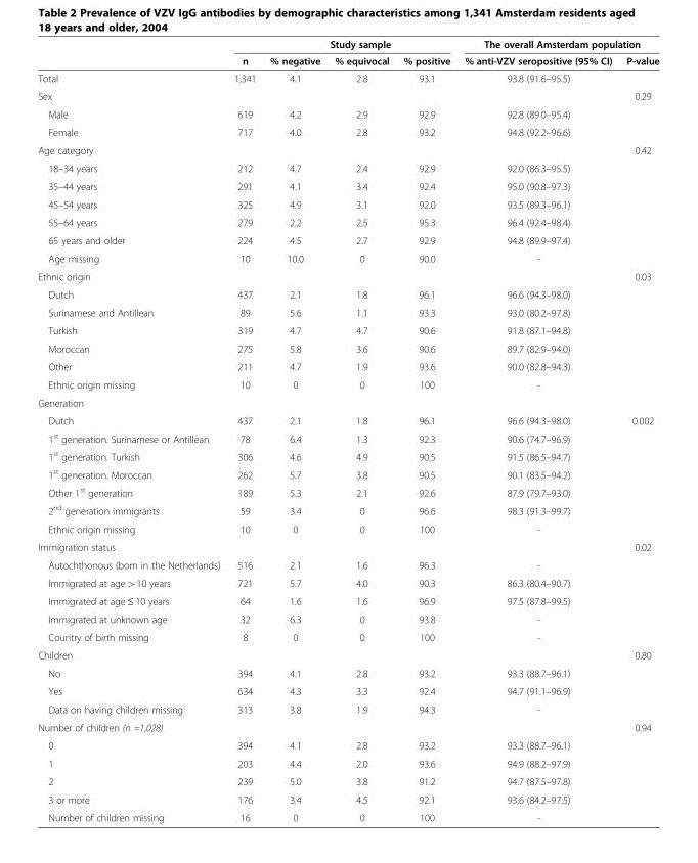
<table><thead><tr><td rowspan="2"></td><td colspan="4">Study sample</td><td colspan="2">The overall Amsterdam population</td></tr><tr><td>n</td><td>% negative</td><td>% equivocal</td><td>% positive</td><td>% anti-VZV seropositive (95% CI)</td><td>P-value</td></tr></thead><tbody><tr><td>Total</td><td>1,341</td><td>4.1</td><td>2.8</td><td>93.1</td><td>93.8 (91.6–95.5)</td><td></td></tr><tr><td>Sex</td><td></td><td></td><td></td><td></td><td></td><td>0.29</td></tr><tr><td>Male</td><td>619</td><td>4.2</td><td>2.9</td><td>92.9</td><td>92.8 (89.0–95.4)</td><td></td></tr><tr><td>Female</td><td>717</td><td>4.0</td><td>2.8</td><td>93.2</td><td>94.8 (92.2–96.6)</td><td></td></tr><tr><td>Age category</td><td></td><td></td><td></td><td></td><td></td><td>0.42</td></tr><tr><td>18–34 years</td><td>212</td><td>4.7</td><td>2.4</td><td>92.9</td><td>92.0 (86.3–95.5)</td><td></td></tr><tr><td>35–44 years</td><td>291</td><td>4.1</td><td>3.4</td><td>92.4</td><td>95.0 (90.8–97.3)</td><td></td></tr><tr><td>45–54 years</td><td>325</td><td>4.9</td><td>3.1</td><td>92.0</td><td>93.5 (89.3–96.1)</td><td></td></tr><tr><td>55–64 years</td><td>279</td><td>2.2</td><td>2.5</td><td>95.3</td><td>96.4 (92.4–98.4)</td><td></td></tr><tr><td>65 years and older</td><td>224</td><td>4.5</td><td>2.7</td><td>92.9</td><td>94.8 (89.9–97.4)</td><td></td></tr><tr><td>Age missing</td><td>10</td><td>10.0</td><td>0</td><td>90.0</td><td>-</td><td></td></tr><tr><td>Ethnic origin</td><td></td><td></td><td></td><td></td><td></td><td>0.03</td></tr><tr><td>Dutch</td><td>437</td><td>2.1</td><td>1.8</td><td>96.1</td><td>96.6 (94.3–98.0)</td><td></td></tr><tr><td>Surinamese and Antillean</td><td>89</td><td>5.6</td><td>1.1</td><td>93.3</td><td>93.0 (80.2–97.8)</td><td></td></tr><tr><td>Turkish</td><td>319</td><td>4.7</td><td>4.7</td><td>90.6</td><td>91.8 (87.1–94.8)</td><td></td></tr><tr><td>Moroccan</td><td>275</td><td>5.8</td><td>3.6</td><td>90.6</td><td>89.7 (82.9–94.0)</td><td></td></tr><tr><td>Other</td><td>211</td><td>4.7</td><td>1.9</td><td>93.6</td><td>90.0 (82.8–94.3)</td><td></td></tr><tr><td>Ethnic origin missing</td><td>10</td><td>0</td><td>0</td><td>100</td><td>-</td><td></td></tr><tr><td colspan="7">Generation</td></tr><tr><td>Dutch</td><td>437</td><td>2.1</td><td>1.8</td><td>96.1</td><td>96.6 (94.3–98.0)</td><td>0.002</td></tr><tr><td>1<sup>st</sup> generation. Surinamese or Antillean</td><td>78</td><td>6.4</td><td>1.3</td><td>92.3</td><td>90.6 (74.7–96.9)</td><td></td></tr><tr><td>1<sup>st</sup> generation. Turkish</td><td>306</td><td>4.6</td><td>4.9</td><td>90.5</td><td>91.5 (86.5–94.7)</td><td></td></tr><tr><td>1<sup>st</sup> generation. Moroccan</td><td>262</td><td>5.7</td><td>3.8</td><td>90.5</td><td>90.1 (83.5–94.2)</td><td></td></tr><tr><td>Other 1<sup>st</sup> generation</td><td>189</td><td>5.3</td><td>2.1</td><td>92.6</td><td>87.9 (79.7–93.0)</td><td></td></tr><tr><td>2<sup>nd</sup> generation immigrants</td><td>59</td><td>3.4</td><td>0</td><td>96.6</td><td>98.3 (91.3–99.7)</td><td></td></tr><tr><td>Ethnic origin missing</td><td>10</td><td>0</td><td>0</td><td>100</td><td>-</td><td></td></tr><tr><td>Immigration status</td><td></td><td></td><td></td><td></td><td></td><td>0.02</td></tr><tr><td>Autochthonous (born in the Netherlands)</td><td>516</td><td>2.1</td><td>1.6</td><td>96.3</td><td>-</td><td></td></tr><tr><td>Immigrated at age &gt; 10 years</td><td>721</td><td>5.7</td><td>4.0</td><td>90.3</td><td>86.3 (80.4–90.7)</td><td></td></tr><tr><td>Immigrated at age ≤ 10 years</td><td>64</td><td>1.6</td><td>1.6</td><td>96.9</td><td>97.5 (87.8–99.5)</td><td></td></tr><tr><td>Immigrated at unknown age</td><td>32</td><td>6.3</td><td>0</td><td>93.8</td><td>-</td><td></td></tr><tr><td>Country of birth missing</td><td>8</td><td>0</td><td>0</td><td>100</td><td>-</td><td></td></tr><tr><td>Children</td><td></td><td></td><td></td><td></td><td></td><td>0.80</td></tr><tr><td>No</td><td>394</td><td>4.1</td><td>2.8</td><td>93.2</td><td>93.3 (88.7–96.1)</td><td></td></tr><tr><td>Yes</td><td>634</td><td>4.3</td><td>3.3</td><td>92.4</td><td>94.7 (91.1–96.9)</td><td></td></tr><tr><td>Data on having children missing</td><td>313</td><td>3.8</td><td>1.9</td><td>94.3</td><td>-</td><td></td></tr><tr><td>Number of children (n =1,028)</td><td></td><td></td><td></td><td></td><td></td><td>0.94</td></tr><tr><td>0</td><td>394</td><td>4.1</td><td>2.8</td><td>93.2</td><td>93.3 (88.7–96.1)</td><td></td></tr><tr><td>1</td><td>203</td><td>4.4</td><td>2.0</td><td>93.6</td><td>94.9 (88.2–97.9)</td><td></td></tr><tr><td>2</td><td>239</td><td>5.0</td><td>3.8</td><td>91.2</td><td>94.7 (87.5–97.8)</td><td></td></tr><tr><td>3 or more</td><td>176</td><td>3.4</td><td>4.5</td><td>92.1</td><td>93.6 (84.2–97.5)</td><td></td></tr><tr><td>Number of children missing</td><td>16</td><td>0</td><td>0</td><td>100</td><td>-</td><td></td></tr></tbody></table>